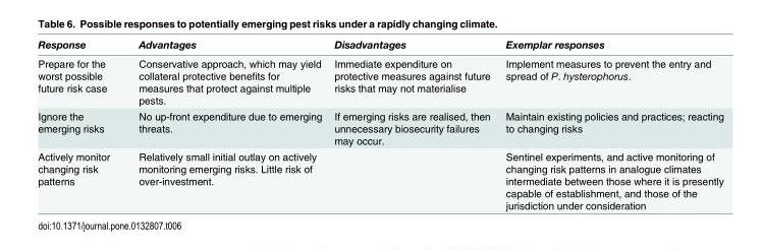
<table><thead><tr><td>Response</td><td>Advantages</td><td>Disadvantages</td><td>Exemplar responses</td></tr></thead><tbody><tr><td>Prepare for the worst possible future risk case</td><td>Conservative approach, which may yield collateral protective benefits for measures that protect against multiple pests.</td><td>Immediate expenditure on protective measures against future risks that may not materialise</td><td>Implement measures to prevent the entry and spread of P. hysterophorus.</td></tr><tr><td>Ignore the emerging risks</td><td>No up-front expenditure due to emerging threats.</td><td>If emerging risks are realised, then unnecessary biosecurity failures may occur.</td><td>Maintain existing policies and practices; reacting to changing risks</td></tr><tr><td>Actively monitor changing risk patterns</td><td>Relatively small initial outlay on actively monitoring emerging risks. Little risk of over-investment.</td><td></td><td>Sentinel experiments, and active monitoring of changing risk patterns in analogue climates intermediate between those where it is presently capable of establishment, and those of the jurisdiction under consideration</td></tr></tbody></table>